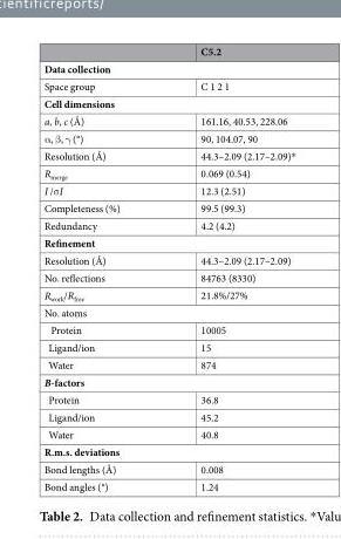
<table><thead><tr><td></td><td>C5.2</td></tr></thead><tbody><tr><td colspan="2">Data collection</td></tr><tr><td>Space group</td><td>C 1 2 1</td></tr><tr><td colspan="2">Cell dimensions</td></tr><tr><td>a, b, c (Å)</td><td>161.16, 40.53, 228.06</td></tr><tr><td>α, β, γ (°)</td><td>90, 104.07, 90</td></tr><tr><td>Resolution (Å)</td><td>44.3–2.09 (2.17–2.09)*</td></tr><tr><td>R<sub>merge</sub></td><td>0.069 (0.54)</td></tr><tr><td>I /σI</td><td>12.3 (2.51)</td></tr><tr><td>Completeness (%)</td><td>99.5 (99.3)</td></tr><tr><td>Redundancy</td><td>4.2 (4.2)</td></tr><tr><td colspan="2">Refinement</td></tr><tr><td>Resolution (Å)</td><td>44.3–2.09 (2.17–2.09)</td></tr><tr><td>No. reflections</td><td>84763 (8330)</td></tr><tr><td>R<sub>work</sub>/R<sub>free</sub></td><td>21.8%/27%</td></tr><tr><td colspan="2">No. atoms</td></tr><tr><td>Protein</td><td>10005</td></tr><tr><td>Ligand/ion</td><td>15</td></tr><tr><td>Water</td><td>874</td></tr><tr><td colspan="2">B-factors</td></tr><tr><td>Protein</td><td>36.8</td></tr><tr><td>Ligand/ion</td><td>45.2</td></tr><tr><td>Water</td><td>40.8</td></tr><tr><td colspan="2">R.m.s. deviations</td></tr><tr><td>Bond lengths (Å)</td><td>0.008</td></tr><tr><td>Bond angles (°)</td><td>1.24</td></tr></tbody></table>